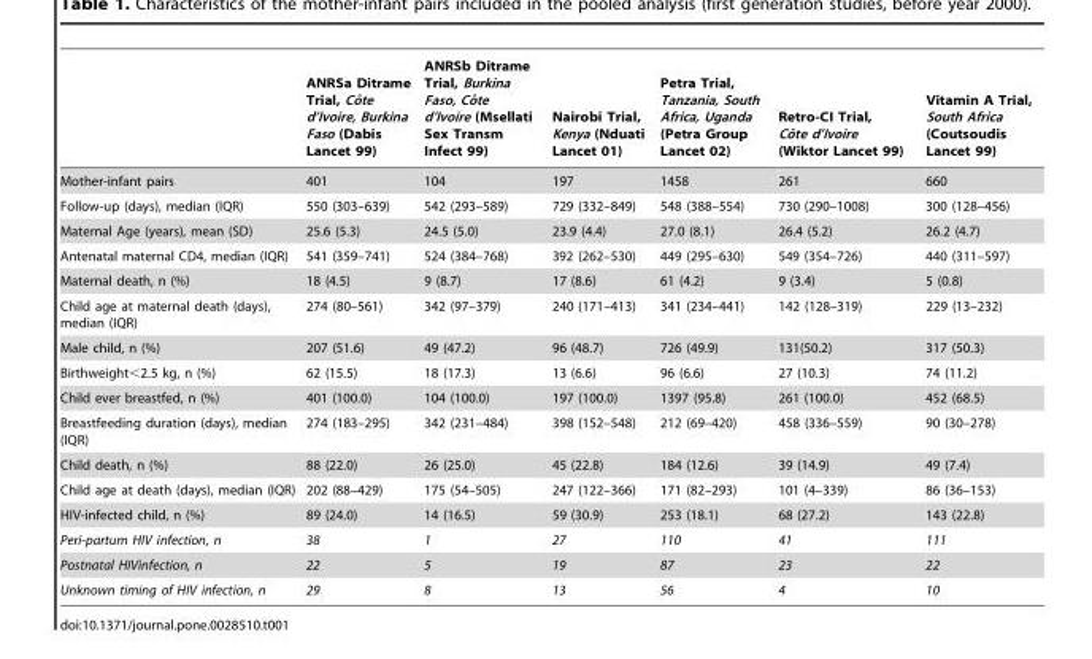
<table><thead><tr><td></td><td>ANRSa Ditrame Trial, Coˆte d’Ivoire, Burkina Faso (Dabis Lancet 99)</td><td>ANRSb Ditrame Trial, Burkina Faso, Coˆte d’Ivoire (Msellati Sex Transm Infect 99)</td><td>Nairobi Trial, Kenya (Nduati Lancet 01)</td><td>Petra Trial, Tanzania, South Africa, Uganda (Petra Group Lancet 02)</td><td>Retro-CI Trial, Coˆte d’Ivoire (Wiktor Lancet 99)</td><td>Vitamin A Trial, South Africa (Coutsoudis Lancet 99)</td></tr></thead><tbody><tr><td>Mother-infant pairs</td><td>401</td><td>104</td><td>197</td><td>1458</td><td>261</td><td>660</td></tr><tr><td>Follow-up (days), median (IQR)</td><td>550 (303–639)</td><td>542 (293–589)</td><td>729 (332–849)</td><td>548 (388–554)</td><td>730 (290–1008)</td><td>300 (128–456)</td></tr><tr><td>Maternal Age (years), mean (SD)</td><td>25.6 (5.3)</td><td>24.5 (5.0)</td><td>23.9 (4.4)</td><td>27.0 (8.1)</td><td>26.4 (5.2)</td><td>26.2 (4.7)</td></tr><tr><td>Antenatal maternal CD4, median (IQR)</td><td>541 (359–741)</td><td>524 (384–768)</td><td>392 (262–530)</td><td>449 (295–630)</td><td>549 (354–726)</td><td>440 (311–597)</td></tr><tr><td>Maternal death, n (%)</td><td>18 (4.5)</td><td>9 (8.7)</td><td>17 (8.6)</td><td>61 (4.2)</td><td>9 (3.4)</td><td>5 (0.8)</td></tr><tr><td>Child age at maternal death (days), median (IQR)</td><td>274 (80–561)</td><td>342 (97–379)</td><td>240 (171–413)</td><td>341 (234–441)</td><td>142 (128–319)</td><td>229 (13–232)</td></tr><tr><td>Male child, n (%)</td><td>207 (51.6)</td><td>49 (47.2)</td><td>96 (48.7)</td><td>726 (49.9)</td><td>131(50.2)</td><td>317 (50.3)</td></tr><tr><td>Birthweight&lt;2.5 kg, n (%)</td><td>62 (15.5)</td><td>18 (17.3)</td><td>13 (6.6)</td><td>96 (6.6)</td><td>27 (10.3)</td><td>74 (11.2)</td></tr><tr><td>Child ever breastfed, n (%)</td><td>401 (100.0)</td><td>104 (100.0)</td><td>197 (100.0)</td><td>1397 (95.8)</td><td>261 (100.0)</td><td>452 (68.5)</td></tr><tr><td>Breastfeeding duration (days), median (IQR)</td><td>274 (183–295)</td><td>342 (231–484)</td><td>398 (152–548)</td><td>212 (69–420)</td><td>458 (336–559)</td><td>90 (30–278)</td></tr><tr><td>Child death, n (%)</td><td>88 (22.0)</td><td>26 (25.0)</td><td>45 (22.8)</td><td>184 (12.6)</td><td>39 (14.9)</td><td>49 (7.4)</td></tr><tr><td>Child age at death (days), median (IQR)</td><td>202 (88–429)</td><td>175 (54–505)</td><td>247 (122–366)</td><td>171 (82–293)</td><td>101 (4–339)</td><td>86 (36–153)</td></tr><tr><td>HIV-infected child, n (%)</td><td>89 (24.0)</td><td>14 (16.5)</td><td>59 (30.9)</td><td>253 (18.1)</td><td>68 (27.2)</td><td>143 (22.8)</td></tr><tr><td>Peri-partum HIV infection, n</td><td>38</td><td>1</td><td>27</td><td>110</td><td>41</td><td>111</td></tr><tr><td>Postnatal HIVinfection, n</td><td>22</td><td>5</td><td>19</td><td>87</td><td>23</td><td>22</td></tr><tr><td>Unknown timing of HIV infection, n</td><td>29</td><td>8</td><td>13</td><td>56</td><td>4</td><td>10</td></tr></tbody></table>